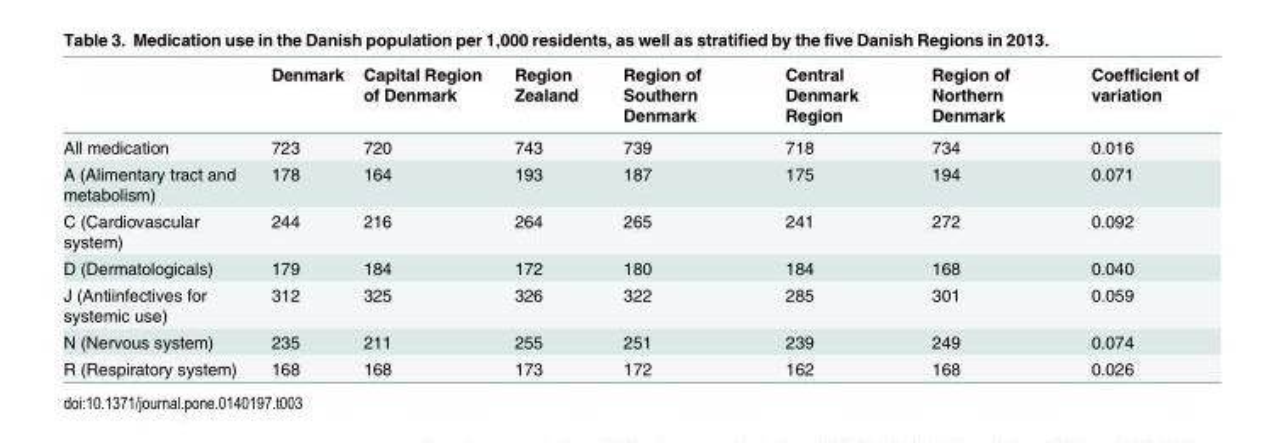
<table><thead><tr><td></td><td>Denmark</td><td>Capital Region of Denmark</td><td>Region Zealand</td><td>Region of Southern Denmark</td><td>Central Denmark Region</td><td>Region of Northern Denmark</td><td>Coefficient of variation</td></tr></thead><tbody><tr><td>All medication</td><td>723</td><td>720</td><td>743</td><td>739</td><td>718</td><td>734</td><td>0.016</td></tr><tr><td>A (Alimentary tract and metabolism)</td><td>178</td><td>164</td><td>193</td><td>187</td><td>175</td><td>194</td><td>0.071</td></tr><tr><td>C (Cardiovascular system)</td><td>244</td><td>216</td><td>264</td><td>265</td><td>241</td><td>272</td><td>0.092</td></tr><tr><td>D (Dermatologicals)</td><td>179</td><td>184</td><td>172</td><td>180</td><td>184</td><td>168</td><td>0.040</td></tr><tr><td>J (Antiinfectives for systemic use)</td><td>312</td><td>325</td><td>326</td><td>322</td><td>285</td><td>301</td><td>0.059</td></tr><tr><td>N (Nervous system)</td><td>235</td><td>211</td><td>255</td><td>251</td><td>239</td><td>249</td><td>0.074</td></tr><tr><td>R (Respiratory system)</td><td>168</td><td>168</td><td>173</td><td>172</td><td>162</td><td>168</td><td>0.026</td></tr></tbody></table>